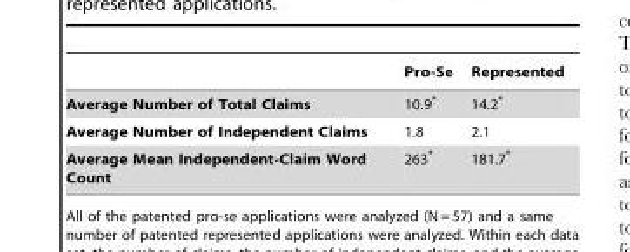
<table><thead><tr><td></td><td>Pro-Se</td><td>Represented</td></tr></thead><tbody><tr><td>Average Number of Total Claims</td><td>10.9*</td><td>14.2*</td></tr><tr><td>Average Number of Independent Claims</td><td>1.8</td><td>2.1</td></tr><tr><td>Average Mean Independent-Claim Word Count</td><td>263*</td><td>181.7*</td></tr></tbody></table>